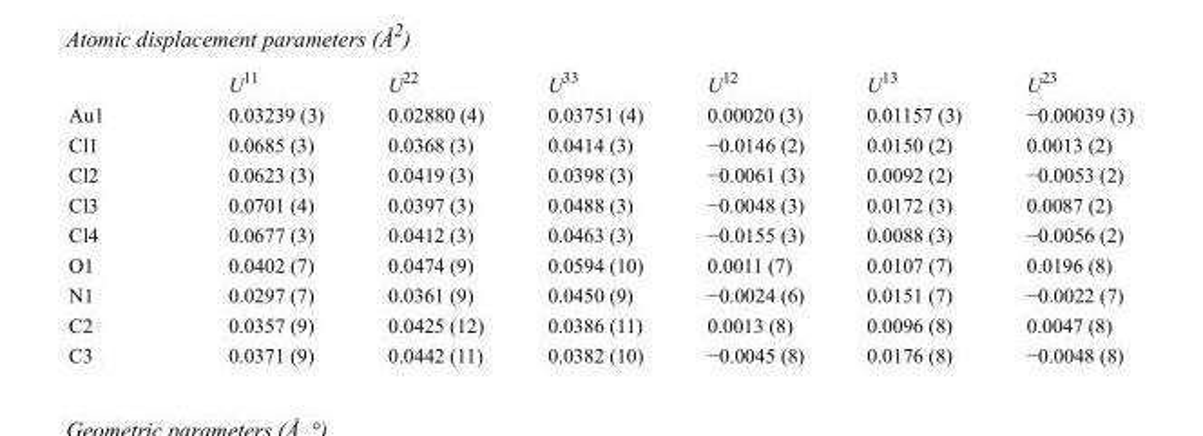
<table><thead><tr><td></td><td>U<sup>11</sup></td><td>U<sup>22</sup></td><td>U<sup>33</sup></td><td>U<sup>12</sup></td><td>U<sup>13</sup></td><td>U<sup>23</sup></td></tr></thead><tbody><tr><td>Au1</td><td>0.03239 (3)</td><td>0.02880 (4)</td><td>0.03751 (4)</td><td>0.00020 (3)</td><td>0.01157 (3)</td><td>−0.00039 (3)</td></tr><tr><td>Cl1</td><td>0.0685 (3)</td><td>0.0368 (3)</td><td>0.0414 (3)</td><td>−0.0146 (2)</td><td>0.0150 (2)</td><td>0.0013 (2)</td></tr><tr><td>Cl2</td><td>0.0623 (3)</td><td>0.0419 (3)</td><td>0.0398 (3)</td><td>−0.0061 (3)</td><td>0.0092 (2)</td><td>−0.0053 (2)</td></tr><tr><td>Cl3</td><td>0.0701 (4)</td><td>0.0397 (3)</td><td>0.0488 (3)</td><td>−0.0048 (3)</td><td>0.0172 (3)</td><td>0.0087 (2)</td></tr><tr><td>Cl4</td><td>0.0677 (3)</td><td>0.0412 (3)</td><td>0.0463 (3)</td><td>−0.0155 (3)</td><td>0.0088 (3)</td><td>−0.0056 (2)</td></tr><tr><td>O1</td><td>0.0402 (7)</td><td>0.0474 (9)</td><td>0.0594 (10)</td><td>0.0011 (7)</td><td>0.0107 (7)</td><td>0.0196 (8)</td></tr><tr><td>N1</td><td>0.0297 (7)</td><td>0.0361 (9)</td><td>0.0450 (9)</td><td>−0.0024 (6)</td><td>0.0151 (7)</td><td>−0.0022 (7)</td></tr><tr><td>C2</td><td>0.0357 (9)</td><td>0.0425 (12)</td><td>0.0386 (11)</td><td>0.0013 (8)</td><td>0.0096 (8)</td><td>0.0047 (8)</td></tr><tr><td>C3</td><td>0.0371 (9)</td><td>0.0442 (11)</td><td>0.0382 (10)</td><td>−0.0045 (8)</td><td>0.0176 (8)</td><td>−0.0048 (8)</td></tr></tbody></table>